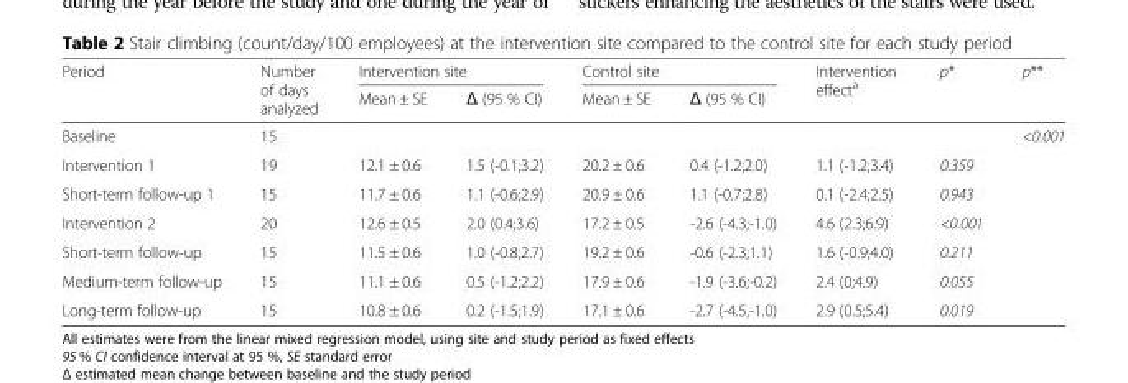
<table><thead><tr><td rowspan="2">Period</td><td rowspan="2">Number of days analyzed</td><td colspan="2">Intervention site</td><td colspan="2">Control site</td><td rowspan="2">Intervention effect<sup>a</sup></td><td rowspan="2">p*</td><td rowspan="2">p**</td></tr><tr><td>Mean ± SE</td><td>Δ (95 % CI)</td><td>Mean ± SE</td><td>Δ (95 % CI)</td></tr></thead><tbody><tr><td>Baseline</td><td>15</td><td></td><td></td><td></td><td></td><td></td><td></td><td>&lt;0.001</td></tr><tr><td>Intervention 1</td><td>19</td><td>12.1 ± 0.6</td><td>1.5 (-0.1;3.2)</td><td>20.2 ± 0.6</td><td>0.4 (-1.2;2.0)</td><td>1.1 (-1.2;3.4)</td><td>0.359</td><td></td></tr><tr><td>Short-term follow-up 1</td><td>15</td><td>11.7 ± 0.6</td><td>1.1 (-0.6;2.9)</td><td>20.9 ± 0.6</td><td>1.1 (-0.7;2.8)</td><td>0.1 (-2.4;2.5)</td><td>0.943</td><td></td></tr><tr><td>Intervention 2</td><td>20</td><td>12.6 ± 0.5</td><td>2.0 (0.4;3.6)</td><td>17.2 ± 0.5</td><td>-2.6 (-4.3;-1.0)</td><td>4.6 (2.3;6.9)</td><td>&lt;0.001</td><td></td></tr><tr><td>Short-term follow-up</td><td>15</td><td>11.5 ± 0.6</td><td>1.0 (-0.8;2.7)</td><td>19.2 ± 0.6</td><td>-0.6 (-2.3;1.1)</td><td>1.6 (-0.9;4.0)</td><td>0.211</td><td></td></tr><tr><td>Medium-term follow-up</td><td>15</td><td>11.1 ± 0.6</td><td>0.5 (-1.2;2.2)</td><td>17.9 ± 0.6</td><td>-1.9 (-3.6;-0.2)</td><td>2.4 (0;4.9)</td><td>0.055</td><td></td></tr><tr><td>Long-term follow-up</td><td>15</td><td>10.8 ± 0.6</td><td>0.2 (-1.5;1.9)</td><td>17.1 ± 0.6</td><td>-2.7 (-4.5,-1.0)</td><td>2.9 (0.5;5.4)</td><td>0.019</td><td></td></tr></tbody></table>